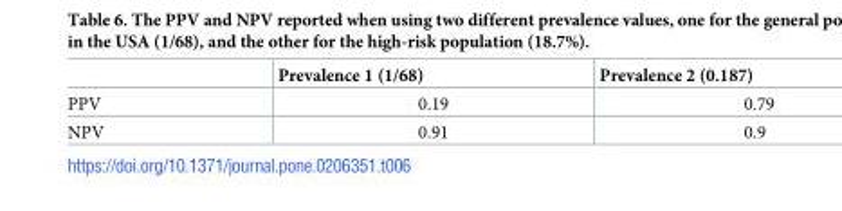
<table><thead><tr><td></td><td>Prevalence 1 (1/68)</td><td>Prevalence 2 (0.187)</td></tr></thead><tbody><tr><td>PPV</td><td>0.19</td><td>0.79</td></tr><tr><td>NPV</td><td>0.91</td><td>0.9</td></tr></tbody></table>